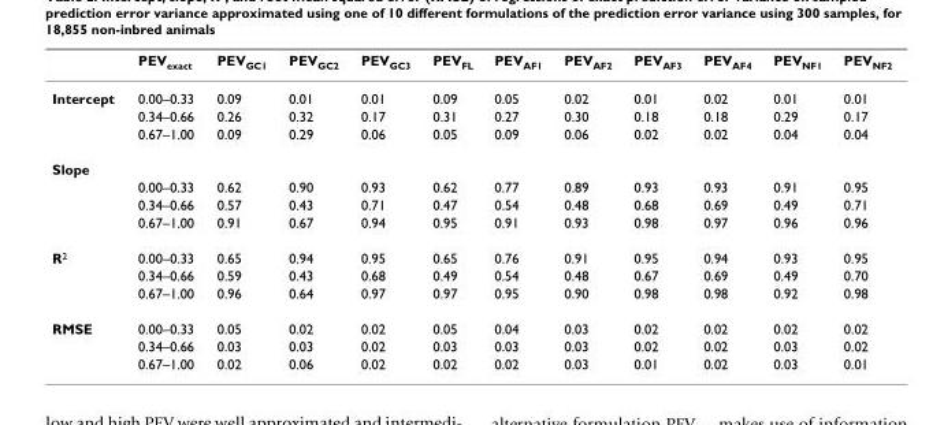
<table><thead><tr><td></td><td>PEV<sub>exact</sub></td><td>PEV<sub>GC1</sub></td><td>PEV<sub>GC2</sub></td><td>PEV<sub>GC3</sub></td><td>PEV<sub>FL</sub></td><td>PEV<sub>AF1</sub></td><td>PEV<sub>AF2</sub></td><td>PEV<sub>AF3</sub></td><td>PEV<sub>AF4</sub></td><td>PEV<sub>NF1</sub></td><td>PEV<sub>NF2</sub></td></tr></thead><tbody><tr><td rowspan="3">Intercept</td><td>0.00–0.33</td><td>0.09</td><td>0.01</td><td>0.01</td><td>0.09</td><td>0.05</td><td>0.02</td><td>0.01</td><td>0.02</td><td>0.01</td><td>0.01</td></tr><tr><td>0.34–0.66</td><td>0.26</td><td>0.32</td><td>0.17</td><td>0.31</td><td>0.27</td><td>0.30</td><td>0.18</td><td>0.18</td><td>0.29</td><td>0.17</td></tr><tr><td>0.67–1.00</td><td>0.09</td><td>0.29</td><td>0.06</td><td>0.05</td><td>0.09</td><td>0.06</td><td>0.02</td><td>0.02</td><td>0.04</td><td>0.04</td></tr><tr><td colspan="12">Slope</td></tr><tr><td></td><td>0.00–0.33</td><td>0.62</td><td>0.90</td><td>0.93</td><td>0.62</td><td>0.77</td><td>0.89</td><td>0.93</td><td>0.93</td><td>0.91</td><td>0.95</td></tr><tr><td></td><td>0.34–0.66</td><td>0.57</td><td>0.43</td><td>0.71</td><td>0.47</td><td>0.54</td><td>0.48</td><td>0.68</td><td>0.69</td><td>0.49</td><td>0.71</td></tr><tr><td></td><td>0.67–1.00</td><td>0.91</td><td>0.67</td><td>0.94</td><td>0.95</td><td>0.91</td><td>0.93</td><td>0.98</td><td>0.97</td><td>0.96</td><td>0.96</td></tr><tr><td rowspan="3">R<sup>2</sup></td><td>0.00–0.33</td><td>0.65</td><td>0.94</td><td>0.95</td><td>0.65</td><td>0.76</td><td>0.91</td><td>0.95</td><td>0.94</td><td>0.93</td><td>0.95</td></tr><tr><td>0.34–0.66</td><td>0.59</td><td>0.43</td><td>0.68</td><td>0.49</td><td>0.54</td><td>0.48</td><td>0.67</td><td>0.69</td><td>0.49</td><td>0.70</td></tr><tr><td>0.67–1.00</td><td>0.96</td><td>0.64</td><td>0.97</td><td>0.97</td><td>0.95</td><td>0.90</td><td>0.98</td><td>0.98</td><td>0.92</td><td>0.98</td></tr><tr><td rowspan="3">RMSE</td><td>0.00–0.33</td><td>0.05</td><td>0.02</td><td>0.02</td><td>0.05</td><td>0.04</td><td>0.03</td><td>0.02</td><td>0.02</td><td>0.02</td><td>0.02</td></tr><tr><td>0.34–0.66</td><td>0.03</td><td>0.03</td><td>0.02</td><td>0.03</td><td>0.03</td><td>0.03</td><td>0.02</td><td>0.02</td><td>0.03</td><td>0.02</td></tr><tr><td>0.67–1.00</td><td>0.02</td><td>0.06</td><td>0.02</td><td>0.02</td><td>0.02</td><td>0.03</td><td>0.01</td><td>0.02</td><td>0.03</td><td>0.01</td></tr></tbody></table>